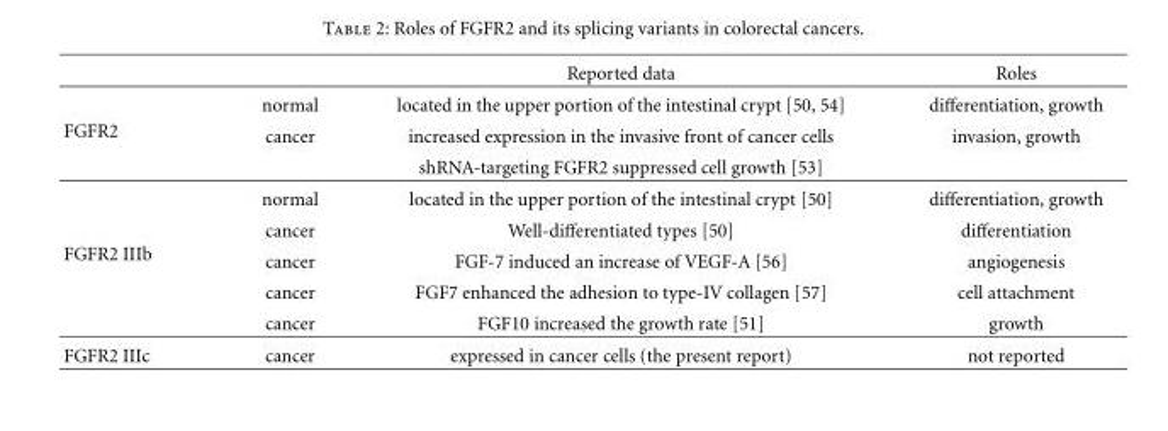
<table><thead><tr><td></td><td></td><td>Reported data</td><td>Roles</td></tr></thead><tbody><tr><td rowspan="3">FGFR2</td><td>normal</td><td>located in the upper portion of the intestinal crypt [50, 54]</td><td>differentiation, growth</td></tr><tr><td>cancer</td><td>increased expression in the invasive front of cancer cells</td><td>invasion, growth</td></tr><tr><td></td><td>shRNA-targeting FGFR2 suppressed cell growth [53]</td><td></td></tr><tr><td rowspan="5">FGFR2 IIIb</td><td>normal</td><td>located in the upper portion of the intestinal crypt [50]</td><td>differentiation, growth</td></tr><tr><td>cancer</td><td>Well-differentiated types [50]</td><td>differentiation</td></tr><tr><td>cancer</td><td>FGF-7 induced an increase of VEGF-A [56]</td><td>angiogenesis</td></tr><tr><td>cancer</td><td>FGF7 enhanced the adhesion to type-IV collagen [57]</td><td>cell attachment</td></tr><tr><td>cancer</td><td>FGF10 increased the growth rate [51]</td><td>growth</td></tr><tr><td>FGFR2 IIIc</td><td>cancer</td><td>expressed in cancer cells (the present report)</td><td>not reported</td></tr></tbody></table>